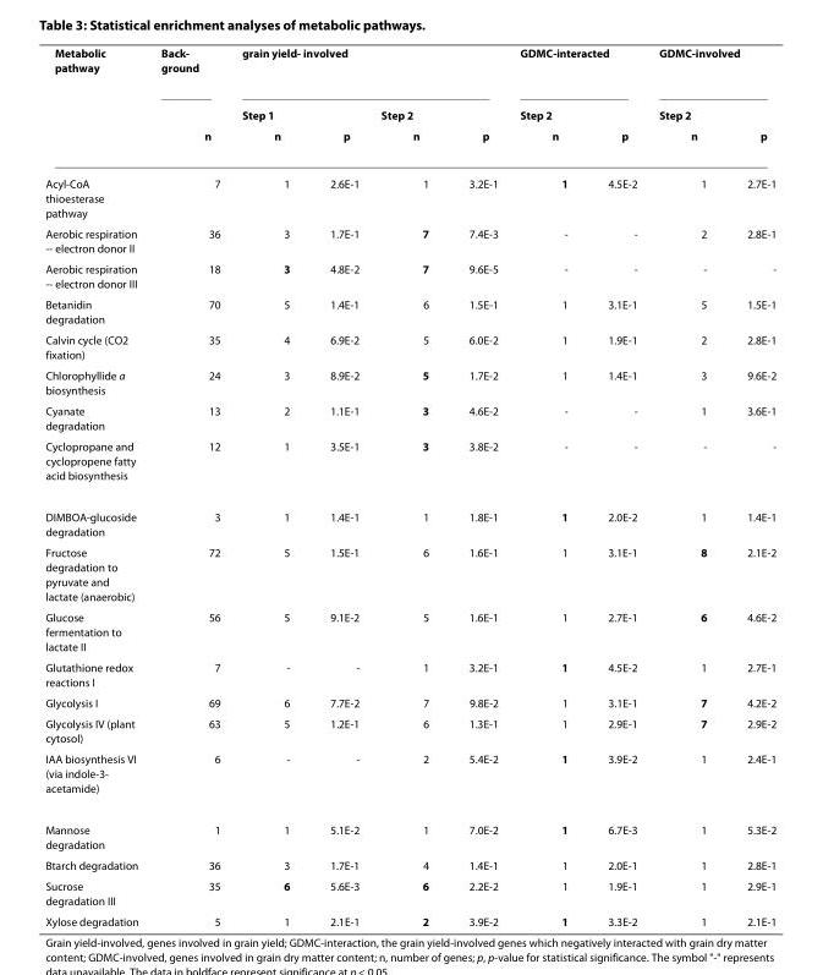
<table><thead><tr><td rowspan="3">Metabolic pathway</td><td rowspan="3">Back- ground n</td><td colspan="4">grain yield- involved</td><td rowspan="2" colspan="2">GDMC-interacted Step 2</td><td rowspan="2" colspan="2">GDMC-involved Step 2</td></tr><tr><td colspan="2">Step 1</td><td colspan="2">Step 2</td></tr><tr><td>n</td><td>p</td><td>n</td><td>p</td><td>n</td><td>p</td><td>n</td><td>p</td></tr></thead><tbody><tr><td>Acyl-CoA thioesterase pathway</td><td>7</td><td>1</td><td>2.6E-1</td><td>1</td><td>3.2E-1</td><td>1</td><td>4.5E-2</td><td>1</td><td>2.7E-1</td></tr><tr><td>Aerobic respiration -- electron donor II</td><td>36</td><td>3</td><td>1.7E-1</td><td>7</td><td>7.4E-3</td><td>-</td><td>-</td><td>2</td><td>2.8E-1</td></tr><tr><td>Aerobic respiration -- electron donor III</td><td>18</td><td>3</td><td>4.8E-2</td><td>7</td><td>9.6E-5</td><td>-</td><td>-</td><td>-</td><td>-</td></tr><tr><td>Betanidin degradation</td><td>70</td><td>5</td><td>1.4E-1</td><td>6</td><td>1.5E-1</td><td>1</td><td>3.1E-1</td><td>5</td><td>1.5E-1</td></tr><tr><td>Calvin cycle (CO2 fixation)</td><td>35</td><td>4</td><td>6.9E-2</td><td>5</td><td>6.0E-2</td><td>1</td><td>1.9E-1</td><td>2</td><td>2.8E-1</td></tr><tr><td>Chlorophyllide a biosynthesis</td><td>24</td><td>3</td><td>8.9E-2</td><td>5</td><td>1.7E-2</td><td>1</td><td>1.4E-1</td><td>3</td><td>9.6E-2</td></tr><tr><td>Cyanate degradation</td><td>13</td><td>2</td><td>1.1E-1</td><td>3</td><td>4.6E-2</td><td>-</td><td>-</td><td>1</td><td>3.6E-1</td></tr><tr><td>Cyclopropane and cyclopropene fatty acid biosynthesis</td><td>12</td><td>1</td><td>3.5E-1</td><td>3</td><td>3.8E-2</td><td>-</td><td>-</td><td>-</td><td>-</td></tr><tr><td>DIMBOA-glucoside degradation</td><td>3</td><td>1</td><td>1.4E-1</td><td>1</td><td>1.8E-1</td><td>1</td><td>2.0E-2</td><td>1</td><td>1.4E-1</td></tr><tr><td>Fructose degradation to pyruvate and lactate (anaerobic)</td><td>72</td><td>5</td><td>1.5E-1</td><td>6</td><td>1.6E-1</td><td>1</td><td>3.1E-1</td><td>8</td><td>2.1E-2</td></tr><tr><td>Glucose fermentation to lactate II</td><td>56</td><td>5</td><td>9.1E-2</td><td>5</td><td>1.6E-1</td><td>1</td><td>2.7E-1</td><td>6</td><td>4.6E-2</td></tr><tr><td>Glutathione redox reactions I</td><td>7</td><td>-</td><td>-</td><td>1</td><td>3.2E-1</td><td>1</td><td>4.5E-2</td><td>1</td><td>2.7E-1</td></tr><tr><td>Glycolysis I</td><td>69</td><td>6</td><td>7.7E-2</td><td>7</td><td>9.8E-2</td><td>1</td><td>3.1E-1</td><td>7</td><td>4.2E-2</td></tr><tr><td>Glycolysis IV (plant cytosol)</td><td>63</td><td>5</td><td>1.2E-1</td><td>6</td><td>1.3E-1</td><td>1</td><td>2.9E-1</td><td>7</td><td>2.9E-2</td></tr><tr><td>IAA biosynthesis VI (via indole-3- acetamide)</td><td>6</td><td>-</td><td>-</td><td>2</td><td>5.4E-2</td><td>1</td><td>3.9E-2</td><td>1</td><td>2.4E-1</td></tr><tr><td>Mannose degradation</td><td>1</td><td>1</td><td>5.1E-2</td><td>1</td><td>7.0E-2</td><td>1</td><td>6.7E-3</td><td>1</td><td>5.3E-2</td></tr><tr><td>Btarch degradation</td><td>36</td><td>3</td><td>1.7E-1</td><td>4</td><td>1.4E-1</td><td>1</td><td>2.0E-1</td><td>1</td><td>2.8E-1</td></tr><tr><td>Sucrose degradation III</td><td>35</td><td>6</td><td>5.6E-3</td><td>6</td><td>2.2E-2</td><td>1</td><td>1.9E-1</td><td>1</td><td>2.9E-1</td></tr><tr><td>Xylose degradation</td><td>5</td><td>1</td><td>2.1E-1</td><td>2</td><td>3.9E-2</td><td>1</td><td>3.3E-2</td><td>1</td><td>2.1E-1</td></tr></tbody></table>